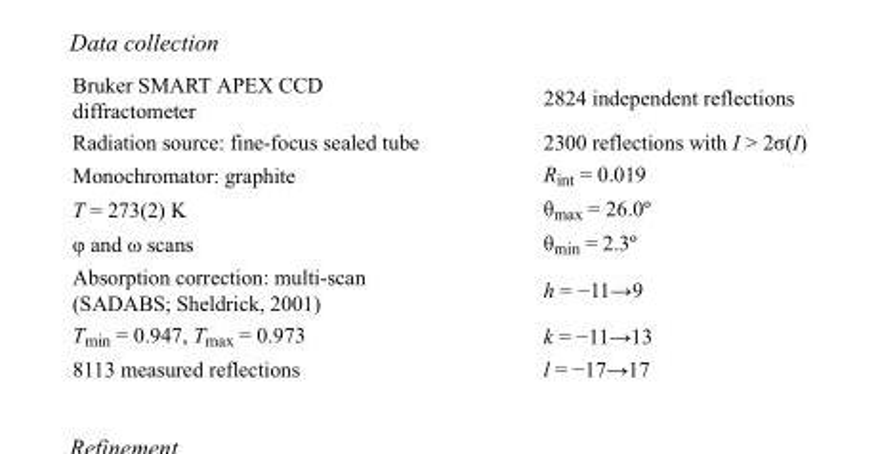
<table><tbody><tr><td>Bruker SMART APEX CCD diffractometer</td><td>2824 independent reflections</td></tr><tr><td>Radiation source: fine-focus sealed tube</td><td>2300 reflections with I &gt; 2σ(I)</td></tr><tr><td>Monochromator: graphite</td><td>R<sub>int</sub> = 0.019</td></tr><tr><td>T = 273(2) K</td><td>θ<sub>max</sub> = 26.0º</td></tr><tr><td>φ and ω scans</td><td>θ<sub>min</sub> = 2.3º</td></tr><tr><td>Absorption correction: multi-scan (SADABS; Sheldrick, 2001)</td><td>h = −11→9</td></tr><tr><td>T<sub>min</sub> = 0.947, T<sub>max</sub> = 0.973</td><td>k = −11→13</td></tr><tr><td>8113 measured reflections</td><td>l = −17→17</td></tr></tbody></table>